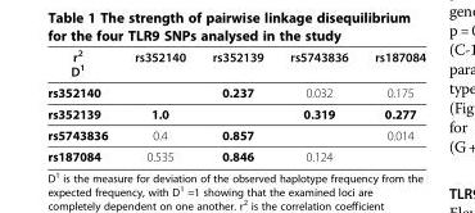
<table><thead><tr><td>r<sup>2</sup> D<sup>1</sup></td><td>rs352140</td><td>rs352139</td><td>rs5743836</td><td>rs187084</td></tr></thead><tbody><tr><td>rs352140</td><td></td><td>0.237</td><td>0.032</td><td>0.175</td></tr><tr><td>rs352139</td><td>1.0</td><td></td><td>0.319</td><td>0.277</td></tr><tr><td>rs5743836</td><td>0.4</td><td>0.857</td><td></td><td>0.014</td></tr><tr><td>rs187084</td><td>0.535</td><td>0.846</td><td>0.124</td><td></td></tr></tbody></table>